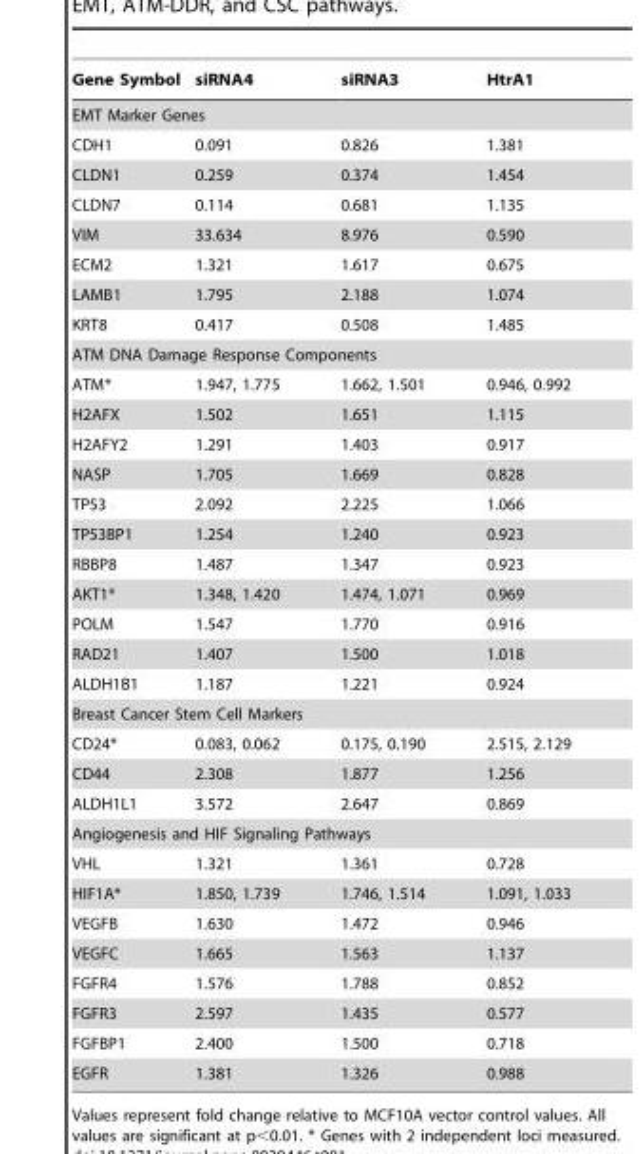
<table><thead><tr><td>Gene Symbol</td><td>siRNA4</td><td>siRNA3</td><td>HtrA1</td></tr></thead><tbody><tr><td colspan="4">EMT Marker Genes</td></tr><tr><td>CDH1</td><td>0.091</td><td>0.826</td><td>1.381</td></tr><tr><td>CLDN1</td><td>0.259</td><td>0.374</td><td>1.454</td></tr><tr><td>CLDN7</td><td>0.114</td><td>0.681</td><td>1.135</td></tr><tr><td>VIM</td><td>33.634</td><td>8.976</td><td>0.590</td></tr><tr><td>ECM2</td><td>1.321</td><td>1.617</td><td>0.675</td></tr><tr><td>LAMB1</td><td>1.795</td><td>2.188</td><td>1.074</td></tr><tr><td>KRT8</td><td>0.417</td><td>0.508</td><td>1.485</td></tr><tr><td colspan="4">ATM DNA Damage Response Components</td></tr><tr><td>ATM*</td><td>1.947, 1.775</td><td>1.662, 1.501</td><td>0.946, 0.992</td></tr><tr><td>H2AFX</td><td>1.502</td><td>1.651</td><td>1.115</td></tr><tr><td>H2AFY2</td><td>1.291</td><td>1.403</td><td>0.917</td></tr><tr><td>NASP</td><td>1.705</td><td>1.669</td><td>0.828</td></tr><tr><td>TP53</td><td>2.092</td><td>2.225</td><td>1.066</td></tr><tr><td>TP53BP1</td><td>1.254</td><td>1.240</td><td>0.923</td></tr><tr><td>RBBP8</td><td>1.487</td><td>1.347</td><td>0.923</td></tr><tr><td>AKT1*</td><td>1.348, 1.420</td><td>1.474, 1.071</td><td>0.969</td></tr><tr><td>POLM</td><td>1.547</td><td>1.770</td><td>0.916</td></tr><tr><td>RAD21</td><td>1.407</td><td>1.500</td><td>1.018</td></tr><tr><td>ALDH1B1</td><td>1.187</td><td>1.221</td><td>0.924</td></tr><tr><td colspan="4">Breast Cancer Stem Cell Markers</td></tr><tr><td>CD24*</td><td>0.083, 0.062</td><td>0.175, 0.190</td><td>2.515, 2.129</td></tr><tr><td>CD44</td><td>2.308</td><td>1.877</td><td>1.256</td></tr><tr><td>ALDH1L1</td><td>3.572</td><td>2.647</td><td>0.869</td></tr><tr><td colspan="4">Angiogenesis and HIF Signaling Pathways</td></tr><tr><td>VHL</td><td>1.321</td><td>1.361</td><td>0.728</td></tr><tr><td>HIF1A*</td><td>1.850, 1.739</td><td>1.746, 1.514</td><td>1.091, 1.033</td></tr><tr><td>VEGFB</td><td>1.630</td><td>1.472</td><td>0.946</td></tr><tr><td>VEGFC</td><td>1.665</td><td>1.563</td><td>1.137</td></tr><tr><td>FGFR4</td><td>1.576</td><td>1.788</td><td>0.852</td></tr><tr><td>FGFR3</td><td>2.597</td><td>1.435</td><td>0.577</td></tr><tr><td>FGFBP1</td><td>2.400</td><td>1.500</td><td>0.718</td></tr><tr><td>EGFR</td><td>1.381</td><td>1.326</td><td>0.988</td></tr></tbody></table>